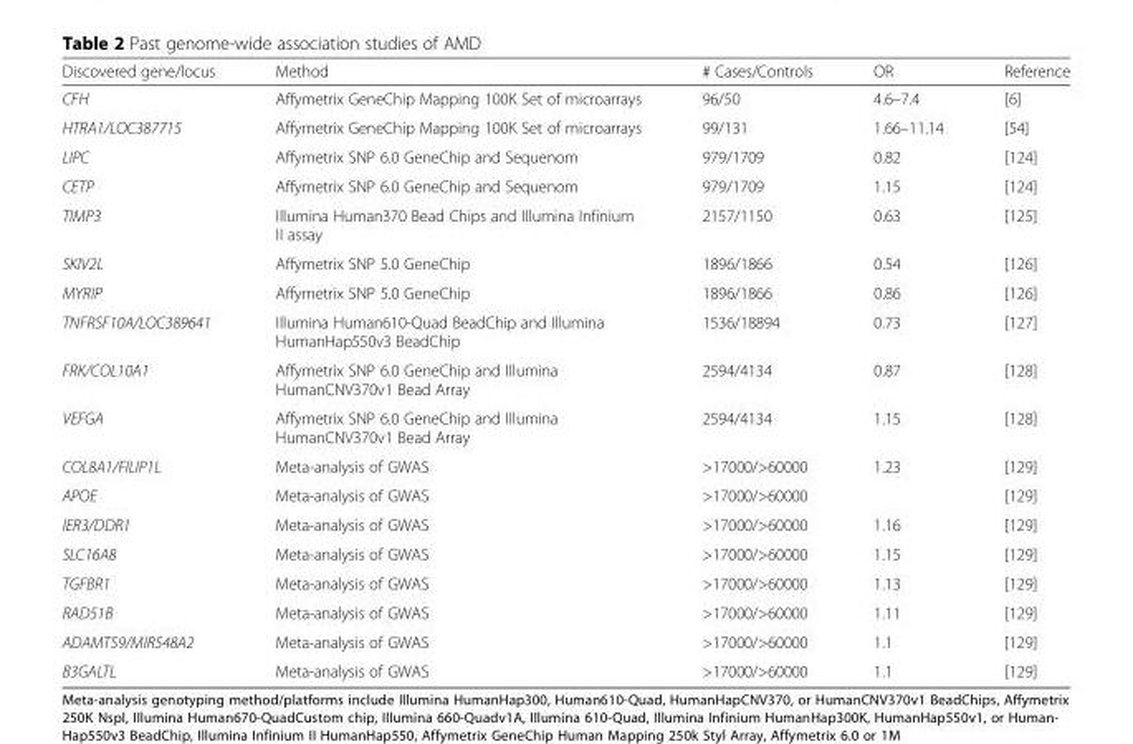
<table><thead><tr><td>Discovered gene/locus</td><td>Method</td><td># Cases/Controls</td><td>OR</td><td>Reference</td></tr></thead><tbody><tr><td>CFH</td><td>Affymetrix GeneChip Mapping 100K Set of microarrays</td><td>96/50</td><td>4.6–7.4</td><td>[6]</td></tr><tr><td>HTRA1/LOC387715</td><td>Affymetrix GeneChip Mapping 100K Set of microarrays</td><td>99/131</td><td>1.66–11.14</td><td>[54]</td></tr><tr><td>LIPC</td><td>Affymetrix SNP 6.0 GeneChip and Sequenom</td><td>979/1709</td><td>0.82</td><td>[124]</td></tr><tr><td>CETP</td><td>Affymetrix SNP 6.0 GeneChip and Sequenom</td><td>979/1709</td><td>1.15</td><td>[124]</td></tr><tr><td>TIMP3</td><td>Illumina Human370 Bead Chips and Illumina Infinium II assay</td><td>2157/1150</td><td>0.63</td><td>[125]</td></tr><tr><td>SKIV2L</td><td>Affymetrix SNP 5.0 GeneChip</td><td>1896/1866</td><td>0.54</td><td>[126]</td></tr><tr><td>MYRIP</td><td>Affymetrix SNP 5.0 GeneChip</td><td>1896/1866</td><td>0.86</td><td>[126]</td></tr><tr><td>TNFRSF10A/LOC389641</td><td>Illumina Human610-Quad BeadChip and Illumina HumanHap550v3 BeadChip</td><td>1536/18894</td><td>0.73</td><td>[127]</td></tr><tr><td>FRK/COL10A1</td><td>Affymetrix SNP 6.0 GeneChip and Illumina HumanCNV370v1 Bead Array</td><td>2594/4134</td><td>0.87</td><td>[128]</td></tr><tr><td>VEFGA</td><td>Affymetrix SNP 6.0 GeneChip and Illumina HumanCNV370v1 Bead Array</td><td>2594/4134</td><td>1.15</td><td>[128]</td></tr><tr><td>COL8A1/FILIP1L</td><td>Meta-analysis of GWAS</td><td>&gt;17000/&gt;60000</td><td>1.23</td><td>[129]</td></tr><tr><td>APOE</td><td>Meta-analysis of GWAS</td><td>&gt;17000/&gt;60000</td><td></td><td>[129]</td></tr><tr><td>IER3/DDR1</td><td>Meta-analysis of GWAS</td><td>&gt;17000/&gt;60000</td><td>1.16</td><td>[129]</td></tr><tr><td>SLC16A8</td><td>Meta-analysis of GWAS</td><td>&gt;17000/&gt;60000</td><td>1.15</td><td>[129]</td></tr><tr><td>TGFBR1</td><td>Meta-analysis of GWAS</td><td>&gt;17000/&gt;60000</td><td>1.13</td><td>[129]</td></tr><tr><td>RAD51B</td><td>Meta-analysis of GWAS</td><td>&gt;17000/&gt;60000</td><td>1.11</td><td>[129]</td></tr><tr><td>ADAMTS9/MIR548A2</td><td>Meta-analysis of GWAS</td><td>&gt;17000/&gt;60000</td><td>1.1</td><td>[129]</td></tr><tr><td>B3GALTL</td><td>Meta-analysis of GWAS</td><td>&gt;17000/&gt;60000</td><td>1.1</td><td>[129]</td></tr></tbody></table>